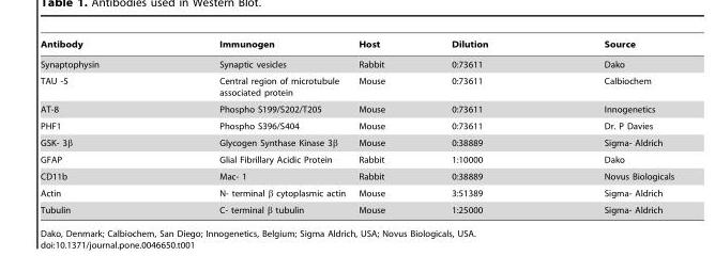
<table><thead><tr><td>Antibody</td><td>Immunogen</td><td>Host</td><td>Dilution</td><td>Source</td></tr></thead><tbody><tr><td>Synaptophysin</td><td>Synaptic vesicles</td><td>Rabbit</td><td>0:73611</td><td>Dako</td></tr><tr><td>TAU -5</td><td>Central region of microtubule associated protein</td><td>Mouse</td><td>0:73611</td><td>Calbiochem</td></tr><tr><td>AT-8</td><td>Phospho S199/S202/T205</td><td>Mouse</td><td>0:73611</td><td>Innogenetics</td></tr><tr><td>PHF1</td><td>Phospho S396/S404</td><td>Mouse</td><td>0:73611</td><td>Dr. P Davies</td></tr><tr><td>GSK- 3β</td><td>Glycogen Synthase Kinase 3β</td><td>Mouse</td><td>0:38889</td><td>Sigma- Aldrich</td></tr><tr><td>GFAP</td><td>Glial Fibrillary Acidic Protein</td><td>Rabbit</td><td>1:10000</td><td>Dako</td></tr><tr><td>CD11b</td><td>Mac- 1</td><td>Rabbit</td><td>0:38889</td><td>Novus Biologicals</td></tr><tr><td>Actin</td><td>N- terminal β cytoplasmic actin</td><td>Mouse</td><td>3:51389</td><td>Sigma- Aldrich</td></tr><tr><td>Tubulin</td><td>C- terminal β tubulin</td><td>Mouse</td><td>1:25000</td><td>Sigma- Aldrich</td></tr></tbody></table>